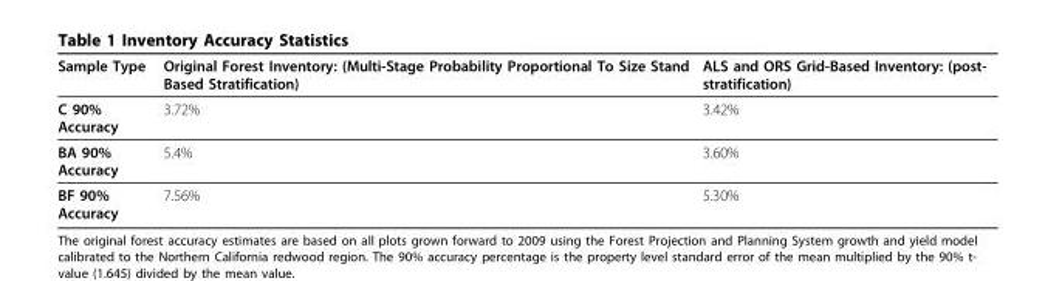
<table><thead><tr><td>Sample Type</td><td>Original Forest Inventory: (Multi-Stage Probability Proportional To Size Stand Based Stratification)</td><td>ALS and ORS Grid-Based Inventory: (post- stratification)</td></tr></thead><tbody><tr><td>C 90% Accuracy</td><td>3.72%</td><td>3.42%</td></tr><tr><td>BA 90% Accuracy</td><td>5.4%</td><td>3.60%</td></tr><tr><td>BF 90% Accuracy</td><td>7.56%</td><td>5.30%</td></tr></tbody></table>